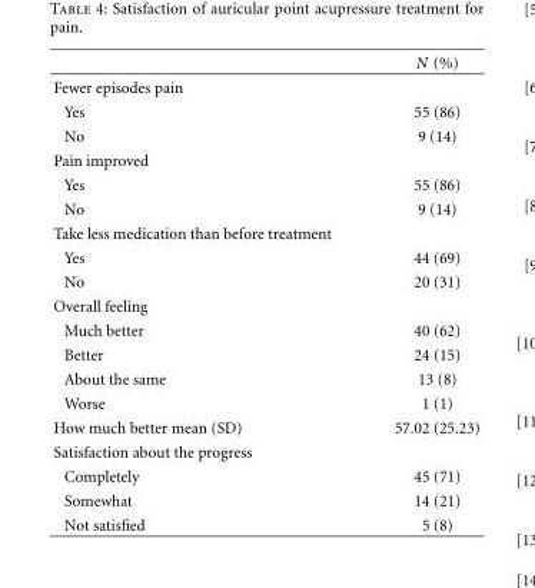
<table><thead><tr><td></td><td>N (%)</td></tr></thead><tbody><tr><td colspan="2">Fewer episodes pain</td></tr><tr><td>Yes</td><td>55 (86)</td></tr><tr><td>No</td><td>9 (14)</td></tr><tr><td colspan="2">Pain improved</td></tr><tr><td>Yes</td><td>55 (86)</td></tr><tr><td>No</td><td>9 (14)</td></tr><tr><td colspan="2">Take less medication than before treatment</td></tr><tr><td>Yes</td><td>44 (69)</td></tr><tr><td>No</td><td>20 (31)</td></tr><tr><td colspan="2">Overall feeling</td></tr><tr><td>Much better</td><td>40 (62)</td></tr><tr><td>Better</td><td>24 (15)</td></tr><tr><td>About the same</td><td>13 (8)</td></tr><tr><td>Worse</td><td>1 (1)</td></tr><tr><td>How much better mean (SD)</td><td>57.02 (25.23)</td></tr><tr><td colspan="2">Satisfaction about the progress</td></tr><tr><td>Completely</td><td>45 (71)</td></tr><tr><td>Somewhat</td><td>14 (21)</td></tr><tr><td>Not satisfied</td><td>5 (8)</td></tr></tbody></table>